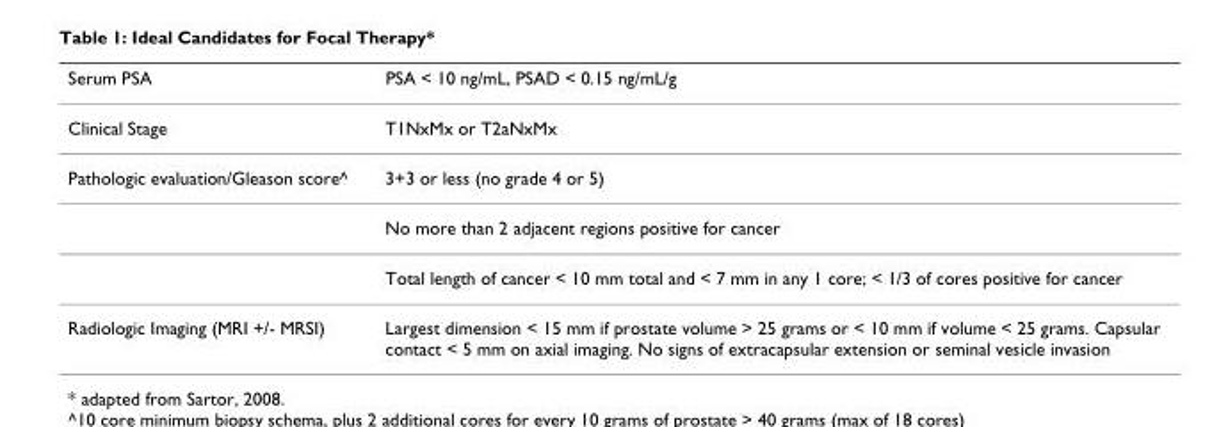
<table><thead><tr><td>Serum PSA</td><td>PSA &lt; 10 ng/mL, PSAD &lt; 0.15 ng/mL/g</td></tr></thead><tbody><tr><td>Clinical Stage</td><td>T1NxMx or T2aNxMx</td></tr><tr><td rowspan="3">Pathologic evaluation/Gleason score^</td><td>3+3 or less (no grade 4 or 5)</td></tr><tr><td>No more than 2 adjacent regions positive for cancer</td></tr><tr><td>Total length of cancer &lt; 10 mm total and &lt; 7 mm in any 1 core; &lt; 1/3 of cores positive for cancer</td></tr><tr><td>Radiologic Imaging (MRI +/- MRSI)</td><td>Largest dimension &lt; 15 mm if prostate volume &gt; 25 grams or &lt; 10 mm if volume &lt; 25 grams. Capsular contact &lt; 5 mm on axial imaging. No signs of extracapsular extension or seminal vesicle invasion</td></tr></tbody></table>